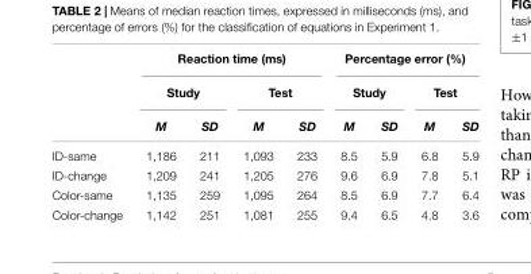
<table><thead><tr><td rowspan="3"></td><td colspan="4">Reaction time (ms)</td><td colspan="4">Percentage error (%)</td></tr><tr><td colspan="2">Study</td><td colspan="2">Test</td><td colspan="2">Study</td><td colspan="2">Test</td></tr><tr><td>M</td><td>SD</td><td>M</td><td>SD</td><td>M</td><td>SD</td><td>M</td><td>SD</td></tr></thead><tbody><tr><td>ID-same</td><td>1,186</td><td>211</td><td>1,093</td><td>233</td><td>8.5</td><td>5.9</td><td>6.8</td><td>5.9</td></tr><tr><td>ID-change</td><td>1,209</td><td>241</td><td>1,205</td><td>276</td><td>9.6</td><td>6.9</td><td>7.8</td><td>5.1</td></tr><tr><td>Color-same</td><td>1,135</td><td>259</td><td>1,095</td><td>264</td><td>8.5</td><td>6.9</td><td>7.7</td><td>6.4</td></tr><tr><td>Color-change</td><td>1,142</td><td>251</td><td>1,081</td><td>255</td><td>9.4</td><td>6.5</td><td>4.8</td><td>3.6</td></tr></tbody></table>